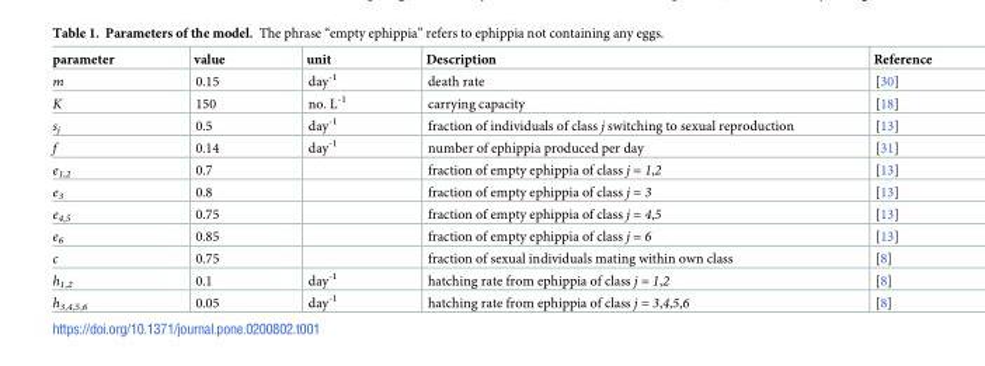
<table><thead><tr><td>parameter</td><td>value</td><td>unit</td><td>Description</td><td>Reference</td></tr></thead><tbody><tr><td>m</td><td>0.15</td><td>day<sup>-1</sup></td><td>death rate</td><td>[30]</td></tr><tr><td>K</td><td>150</td><td>no. L<sup>-1</sup></td><td>carrying capacity</td><td>[18]</td></tr><tr><td>s<sub>j</sub></td><td>0.5</td><td>day<sup>-1</sup></td><td>fraction of individuals of class j switching to sexual reproduction</td><td>[13]</td></tr><tr><td>f</td><td>0.14</td><td>day<sup>-1</sup></td><td>number of ephippia produced per day</td><td>[31]</td></tr><tr><td>e<sub>1,2</sub></td><td>0.7</td><td></td><td>fraction of empty ephippia of class j = 1,2</td><td>[13]</td></tr><tr><td>e<sub>3</sub></td><td>0.8</td><td></td><td>fraction of empty ephippia of class j = 3</td><td>[13]</td></tr><tr><td>e<sub>4,5</sub></td><td>0.75</td><td></td><td>fraction of empty ephippia of class j = 4,5</td><td>[13]</td></tr><tr><td>e<sub>6</sub></td><td>0.85</td><td></td><td>fraction of empty ephippia of class j = 6</td><td>[13]</td></tr><tr><td>c</td><td>0.75</td><td></td><td>fraction of sexual individuals mating within own class</td><td>[8]</td></tr><tr><td>h<sub>1,2</sub></td><td>0.1</td><td>day<sup>-1</sup></td><td>hatching rate from ephippia of class j = 1,2</td><td>[8]</td></tr><tr><td>h<sub>3,4,5,6</sub></td><td>0.05</td><td>day<sup>-1</sup></td><td>hatching rate from ephippia of class j = 3,4,5,6</td><td>[8]</td></tr></tbody></table>